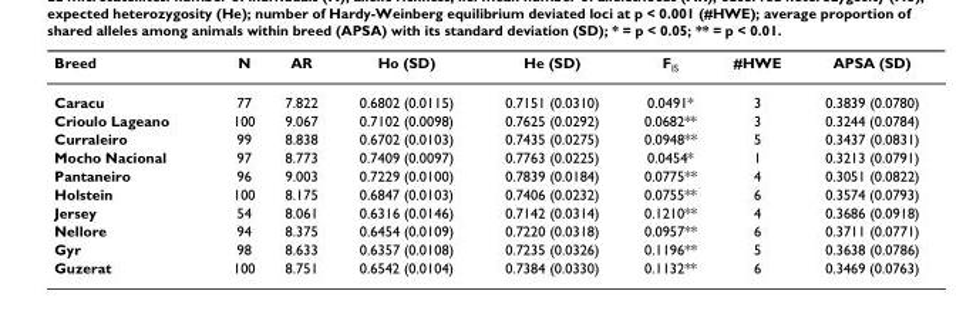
<table><thead><tr><td>Breed</td><td>N</td><td>AR</td><td>Ho (SD)</td><td>He (SD)</td><td>F<sub>IS</sub></td><td>#HWE</td><td>APSA (SD)</td></tr></thead><tbody><tr><td>Caracu</td><td>77</td><td>7.822</td><td>0.6802 (0.0115)</td><td>0.7151 (0.0310)</td><td>0.0491*</td><td>3</td><td>0.3839 (0.0780)</td></tr><tr><td>Crioulo Lageano</td><td>100</td><td>9.067</td><td>0.7102 (0.0098)</td><td>0.7625 (0.0292)</td><td>0.0682**</td><td>3</td><td>0.3244 (0.0784)</td></tr><tr><td>Curraleiro</td><td>99</td><td>8.838</td><td>0.6702 (0.0103)</td><td>0.7435 (0.0275)</td><td>0.0948**</td><td>5</td><td>0.3437 (0.0831)</td></tr><tr><td>Mocho Nacional</td><td>97</td><td>8.773</td><td>0.7409 (0.0097)</td><td>0.7763 (0.0225)</td><td>0.0454*</td><td>1</td><td>0.3213 (0.0791)</td></tr><tr><td>Pantaneiro</td><td>96</td><td>9.003</td><td>0.7229 (0.0100)</td><td>0.7839 (0.0184)</td><td>0.0775**</td><td>4</td><td>0.3051 (0.0822)</td></tr><tr><td>Holstein</td><td>100</td><td>8.175</td><td>0.6847 (0.0103)</td><td>0.7406 (0.0232)</td><td>0.0755**</td><td>6</td><td>0.3574 (0.0793)</td></tr><tr><td>Jersey</td><td>54</td><td>8.061</td><td>0.6316 (0.0146)</td><td>0.7142 (0.0314)</td><td>0.1210**</td><td>4</td><td>0.3686 (0.0918)</td></tr><tr><td>Nellore</td><td>94</td><td>8.375</td><td>0.6454 (0.0109)</td><td>0.7220 (0.0318)</td><td>0.0957**</td><td>6</td><td>0.3711 (0.0771)</td></tr><tr><td>Gyr</td><td>98</td><td>8.633</td><td>0.6357 (0.0108)</td><td>0.7235 (0.0326)</td><td>0.1196**</td><td>5</td><td>0.3638 (0.0786)</td></tr><tr><td>Guzerat</td><td>100</td><td>8.751</td><td>0.6542 (0.0104)</td><td>0.7384 (0.0330)</td><td>0.1132**</td><td>6</td><td>0.3469 (0.0763)</td></tr></tbody></table>